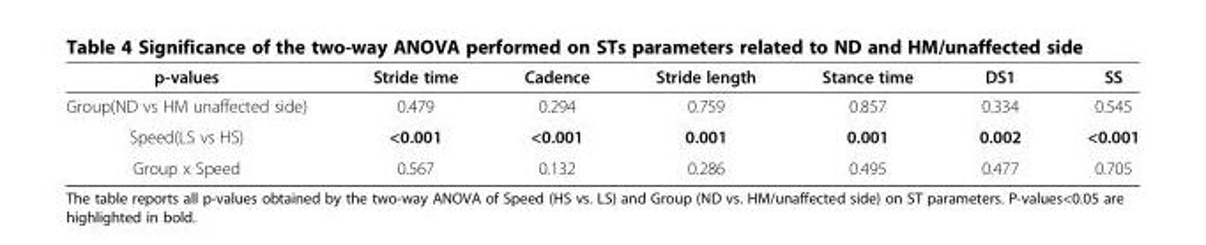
<table><thead><tr><td>p-values</td><td>Stride time</td><td>Cadence</td><td>Stride length</td><td>Stance time</td><td>DS1</td><td>SS</td></tr></thead><tbody><tr><td>Group(ND vs HM unaffected side)</td><td>0.479</td><td>0.294</td><td>0.759</td><td>0.857</td><td>0.334</td><td>0.545</td></tr><tr><td>Speed(LS vs HS)</td><td>&lt;0.001</td><td>&lt;0.001</td><td>0.001</td><td>0.001</td><td>0.002</td><td>&lt;0.001</td></tr><tr><td>Group x Speed</td><td>0.567</td><td>0.132</td><td>0.286</td><td>0.495</td><td>0.477</td><td>0.705</td></tr></tbody></table>